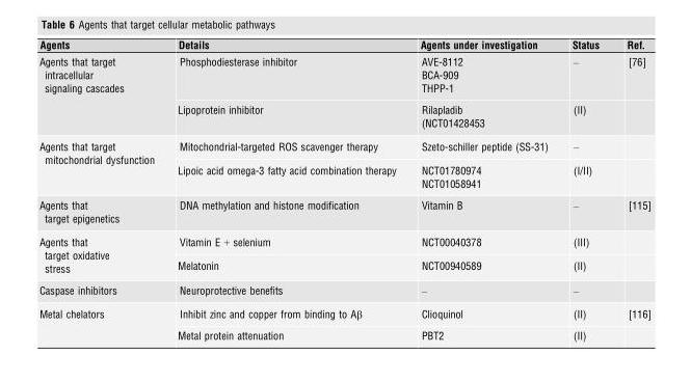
<table><thead><tr><td>Agents</td><td>Details</td><td>Agents under investigation</td><td>Status</td><td>Ref.</td></tr></thead><tbody><tr><td rowspan="2">Agents that target intracellular signaling cascades</td><td>Phosphodiesterase inhibitor</td><td>AVE-8112 BCA-909 THPP-1</td><td>–</td><td>[76]</td></tr><tr><td>Lipoprotein inhibitor</td><td>Rilapladib (NCT01428453</td><td>(II)</td><td></td></tr><tr><td rowspan="2">Agents that target mitochondrial dysfunction</td><td>Mitochondrial-targeted ROS scavenger therapy</td><td>Szeto-schiller peptide (SS-31)</td><td>–</td><td></td></tr><tr><td>Lipoic acid omega-3 fatty acid combination therapy</td><td>NCT01780974 NCT01058941</td><td>(I/II)</td><td></td></tr><tr><td>Agents that target epigenetics</td><td>DNA methylation and histone modification</td><td>Vitamin B</td><td>–</td><td>[115]</td></tr><tr><td rowspan="2">Agents that target oxidative stress</td><td>Vitamin E + selenium</td><td>NCT00040378</td><td>(III)</td><td></td></tr><tr><td>Melatonin</td><td>NCT00940589</td><td>(II)</td><td></td></tr><tr><td>Caspase inhibitors</td><td>Neuroprotective benefits</td><td>–</td><td>–</td><td></td></tr><tr><td rowspan="2">Metal chelators</td><td>Inhibit zinc and copper from binding to Aβ</td><td>Clioquinol</td><td>(II)</td><td>[116]</td></tr><tr><td>Metal protein attenuation</td><td>PBT2</td><td>(II)</td><td></td></tr></tbody></table>